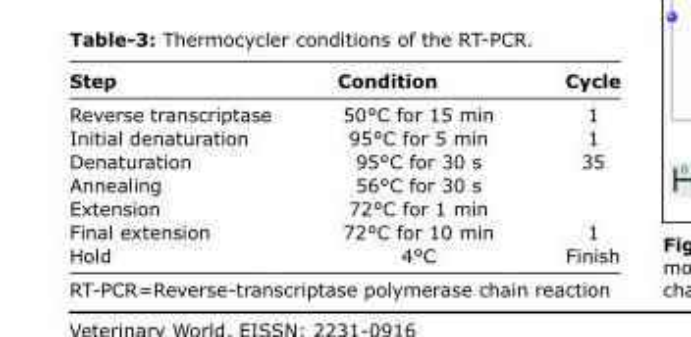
<table><thead><tr><td>Step</td><td>Condition</td><td>Cycle</td></tr></thead><tbody><tr><td>Reverse transcriptase</td><td>50°C for 15 min</td><td>1</td></tr><tr><td>Initial denaturation</td><td>95°C for 5 min</td><td>1</td></tr><tr><td>Denaturation</td><td>95°C for 30 s</td><td rowspan="3">35</td></tr><tr><td>Annealing</td><td>56°C for 30 s</td></tr><tr><td>Extension</td><td>72°C for 1 min</td></tr><tr><td>Final extension</td><td>72°C for 10 min</td><td>1</td></tr><tr><td>Hold</td><td>4°C</td><td>Finish</td></tr></tbody></table>